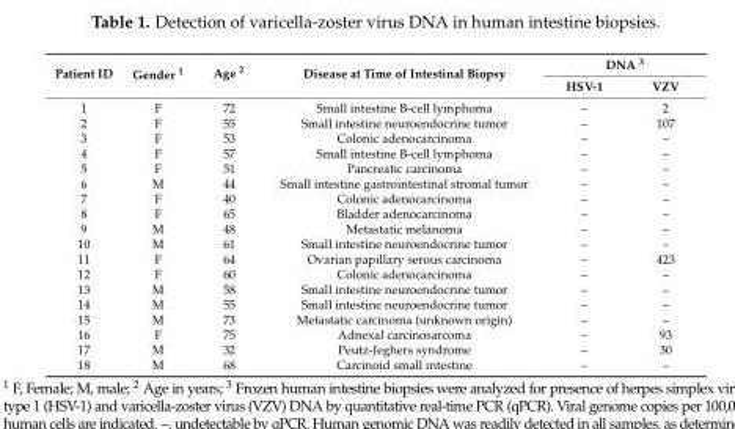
<table><thead><tr><td rowspan="2">Patient ID</td><td rowspan="2">Gender <sup>1</sup></td><td rowspan="2">Age <sup>2</sup></td><td rowspan="2">Disease at Time of Intestinal Biopsy</td><td colspan="2">DNA <sup>3</sup></td></tr><tr><td>HSV-1</td><td>VZV</td></tr></thead><tbody><tr><td>1</td><td>F</td><td>72</td><td>Small intestine B-cell lymphoma</td><td>–</td><td>2</td></tr><tr><td>2</td><td>F</td><td>55</td><td>Small intestine neuroendocrine tumor</td><td>–</td><td>107</td></tr><tr><td>3</td><td>F</td><td>53</td><td>Colonic adenocarcinoma</td><td>–</td><td>–</td></tr><tr><td>4</td><td>F</td><td>57</td><td>Small intestine B-cell lymphoma</td><td>–</td><td>–</td></tr><tr><td>5</td><td>F</td><td>51</td><td>Pancreatic carcinoma</td><td>–</td><td>–</td></tr><tr><td>6</td><td>M</td><td>44</td><td>Small intestine gastrointestinal stromal tumor</td><td>–</td><td>–</td></tr><tr><td>7</td><td>F</td><td>40</td><td>Colonic adenocarcinoma</td><td>–</td><td>–</td></tr><tr><td>8</td><td>F</td><td>65</td><td>Bladder adenocarcinoma</td><td>–</td><td>–</td></tr><tr><td>9</td><td>M</td><td>48</td><td>Metastatic melanoma</td><td>–</td><td>–</td></tr><tr><td>10</td><td>M</td><td>61</td><td>Small intestine neuroendocrine tumor</td><td>–</td><td>–</td></tr><tr><td>11</td><td>F</td><td>64</td><td>Ovarian papillary serous carcinoma</td><td>–</td><td>423</td></tr><tr><td>12</td><td>F</td><td>60</td><td>Colonic adenocarcinoma</td><td>–</td><td>–</td></tr><tr><td>13</td><td>M</td><td>58</td><td>Small intestine neuroendocrine tumor</td><td>–</td><td>–</td></tr><tr><td>14</td><td>M</td><td>55</td><td>Small intestine neuroendocrine tumor</td><td>–</td><td>–</td></tr><tr><td>15</td><td>M</td><td>73</td><td>Metastatic carcinoma (unknown origin)</td><td>–</td><td>–</td></tr><tr><td>16</td><td>F</td><td>75</td><td>Adnexal carcinosarcoma</td><td>–</td><td>93</td></tr><tr><td>17</td><td>M</td><td>32</td><td>Peutz-Jeghers syndrome</td><td>–</td><td>30</td></tr><tr><td>18</td><td>M</td><td>68</td><td>Carcinoid small intestine</td><td>–</td><td>–</td></tr></tbody></table>